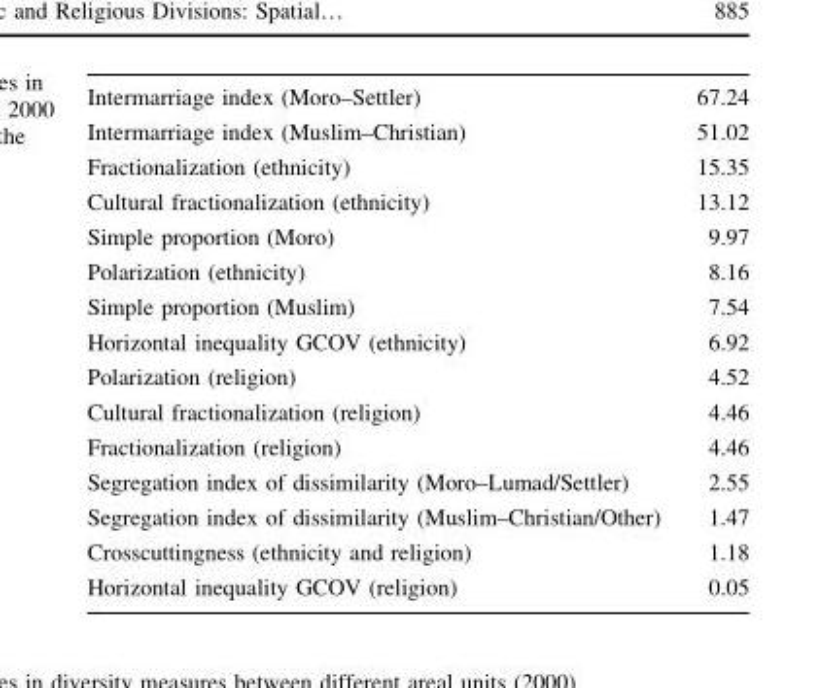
<table><tbody><tr><td>Intermarriage index (Moro–Settler)</td><td>67.24</td></tr><tr><td>Intermarriage index (Muslim–Christian)</td><td>51.02</td></tr><tr><td>Fractionalization (ethnicity)</td><td>15.35</td></tr><tr><td>Cultural fractionalization (ethnicity)</td><td>13.12</td></tr><tr><td>Simple proportion (Moro)</td><td>9.97</td></tr><tr><td>Polarization (ethnicity)</td><td>8.16</td></tr><tr><td>Simple proportion (Muslim)</td><td>7.54</td></tr><tr><td>Horizontal inequality GCOV (ethnicity)</td><td>6.92</td></tr><tr><td>Polarization (religion)</td><td>4.52</td></tr><tr><td>Cultural fractionalization (religion)</td><td>4.46</td></tr><tr><td>Fractionalization (religion)</td><td>4.46</td></tr><tr><td>Segregation index of dissimilarity (Moro–Lumad/Settler)</td><td>2.55</td></tr><tr><td>Segregation index of dissimilarity (Muslim–Christian/Other)</td><td>1.47</td></tr><tr><td>Crosscuttingness (ethnicity and religion)</td><td>1.18</td></tr><tr><td>Horizontal inequality GCOV (religion)</td><td>0.05</td></tr></tbody></table>